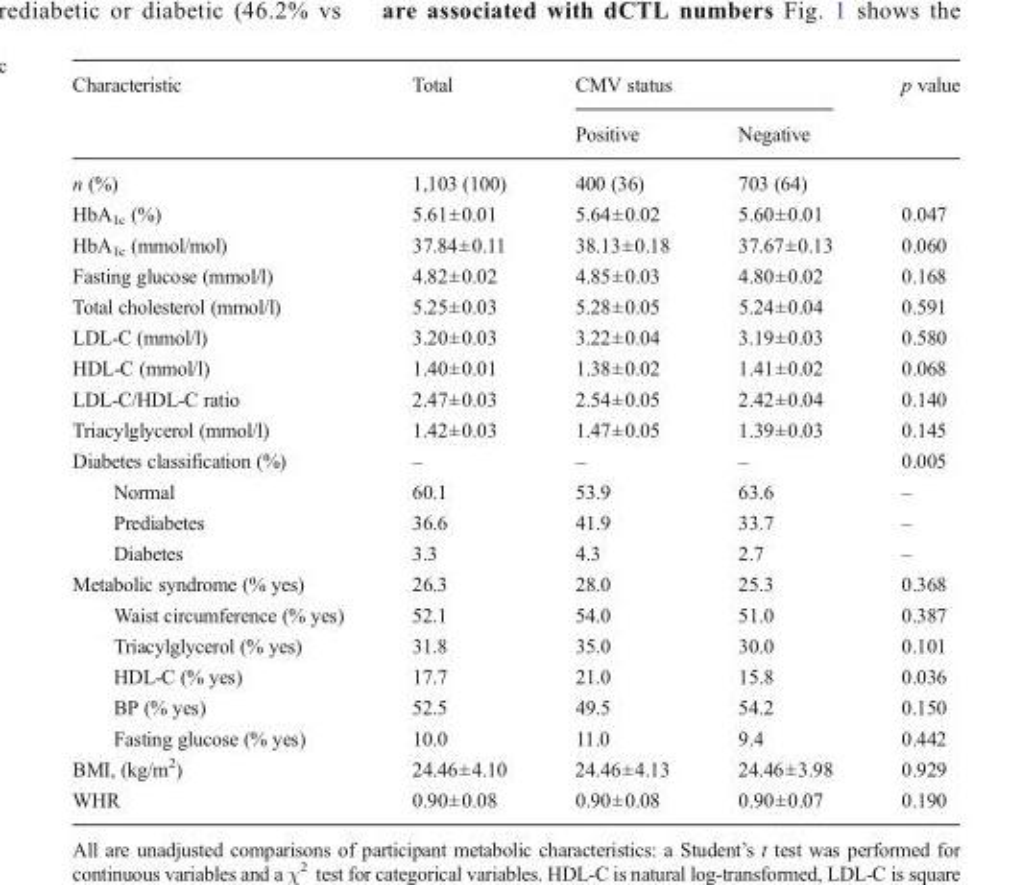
<table><thead><tr><td rowspan="2">Characteristic</td><td rowspan="2">Total</td><td colspan="2">CMV status</td><td rowspan="2">p value</td></tr><tr><td>Positive</td><td>Negative</td></tr></thead><tbody><tr><td>n (%)</td><td>1,103 (100)</td><td>400 (36)</td><td>703 (64)</td><td></td></tr><tr><td>HbA<sub>1c</sub> (%)</td><td>5.61±0.01</td><td>5.64±0.02</td><td>5.60±0.01</td><td>0.047</td></tr><tr><td>HbA<sub>1c</sub> (mmol/mol)</td><td>37.84±0.11</td><td>38.13±0.18</td><td>37.67±0.13</td><td>0.060</td></tr><tr><td>Fasting glucose (mmol/l)</td><td>4.82±0.02</td><td>4.85±0.03</td><td>4.80±0.02</td><td>0.168</td></tr><tr><td>Total cholesterol (mmol/l)</td><td>5.25±0.03</td><td>5.28±0.05</td><td>5.24±0.04</td><td>0.591</td></tr><tr><td>LDL-C (mmol/l)</td><td>3.20±0.03</td><td>3.22±0.04</td><td>3.19±0.03</td><td>0.580</td></tr><tr><td>HDL-C (mmol/l)</td><td>1.40±0.01</td><td>1.38±0.02</td><td>1.41±0.02</td><td>0.068</td></tr><tr><td>LDL-C/HDL-C ratio</td><td>2.47±0.03</td><td>2.54±0.05</td><td>2.42±0.04</td><td>0.140</td></tr><tr><td>Triacylglycerol (mmol/l)</td><td>1.42±0.03</td><td>1.47±0.05</td><td>1.39±0.03</td><td>0.145</td></tr><tr><td>Diabetes classification (%)</td><td>–</td><td>–</td><td>–</td><td>0.005</td></tr><tr><td>Normal</td><td>60.1</td><td>53.9</td><td>63.6</td><td>–</td></tr><tr><td>Prediabetes</td><td>36.6</td><td>41.9</td><td>33.7</td><td>–</td></tr><tr><td>Diabetes</td><td>3.3</td><td>4.3</td><td>2.7</td><td>–</td></tr><tr><td>Metabolic syndrome (% yes)</td><td>26.3</td><td>28.0</td><td>25.3</td><td>0.368</td></tr><tr><td>Waist circumference (% yes)</td><td>52.1</td><td>54.0</td><td>51.0</td><td>0.387</td></tr><tr><td>Triacylglycerol (% yes)</td><td>31.8</td><td>35.0</td><td>30.0</td><td>0.101</td></tr><tr><td>HDL-C (% yes)</td><td>17.7</td><td>21.0</td><td>15.8</td><td>0.036</td></tr><tr><td>BP (% yes)</td><td>52.5</td><td>49.5</td><td>54.2</td><td>0.150</td></tr><tr><td>Fasting glucose (% yes)</td><td>10.0</td><td>11.0</td><td>9.4</td><td>0.442</td></tr><tr><td>BMI, (kg/m<sup>2</sup>)</td><td>24.46±4.10</td><td>24.46±4.13</td><td>24.46±3.98</td><td>0.929</td></tr><tr><td>WHR</td><td>0.90±0.08</td><td>0.90±0.08</td><td>0.90±0.07</td><td>0.190</td></tr></tbody></table>